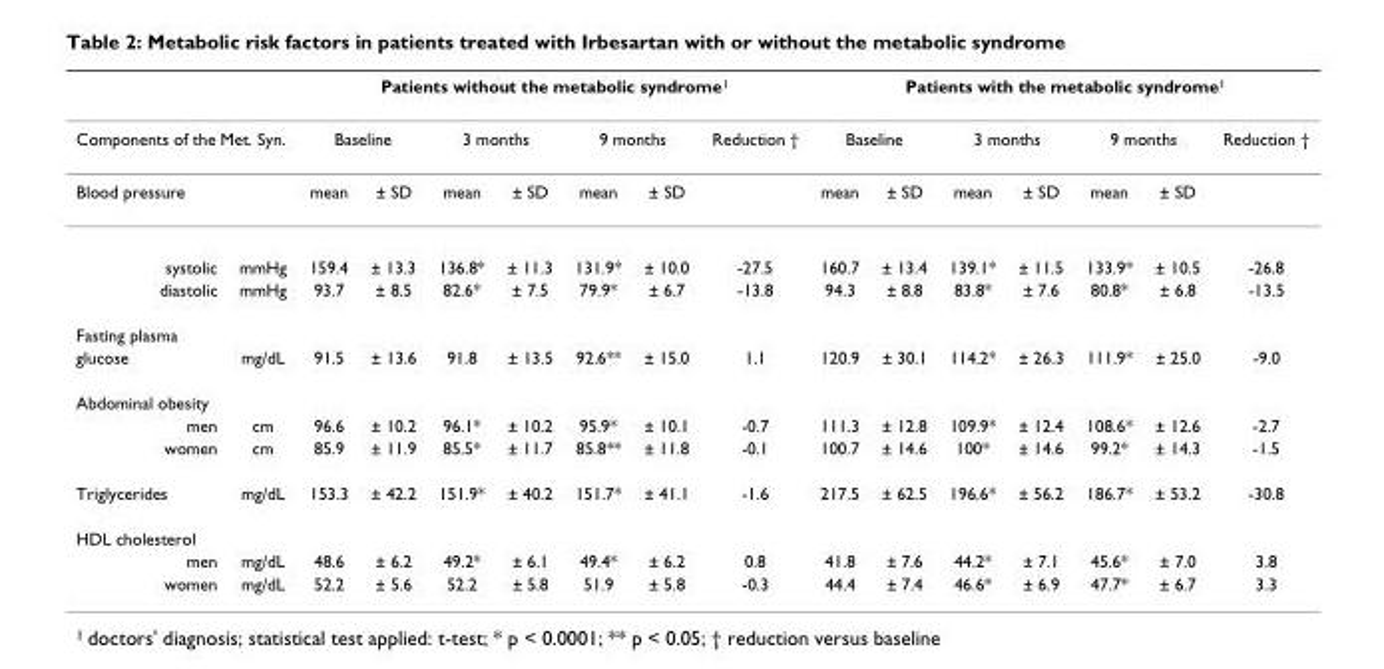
<table><thead><tr><td></td><td></td><td colspan="7">Patients without the metabolic syndrome<sup>1</sup></td><td colspan="7">Patients with the metabolic syndrome<sup>1</sup></td></tr><tr><td rowspan="2" colspan="2">Components of the Met. Syn. Blood pressure</td><td colspan="2">Baseline</td><td colspan="2">3 months</td><td colspan="2">9 months</td><td rowspan="2">Reduction †</td><td colspan="2">Baseline</td><td colspan="2">3 months</td><td colspan="2">9 months</td><td rowspan="2">Reduction †</td></tr><tr><td>mean</td><td>± SD</td><td>mean</td><td>± SD</td><td>mean</td><td>± SD</td><td>mean</td><td>± SD</td><td>mean</td><td>± SD</td><td>mean</td><td>± SD</td></tr></thead><tbody><tr><td>systolic</td><td>mmHg</td><td>159.4</td><td>± 13.3</td><td>136.8*</td><td>± 11.3</td><td>131.9*</td><td>± 10.0</td><td>-27.5</td><td>160.7</td><td>± 13.4</td><td>139.1*</td><td>± 11.5</td><td>133.9*</td><td>± 10.5</td><td>-26.8</td></tr><tr><td>diastolic</td><td>mmHg</td><td>93.7</td><td>± 8.5</td><td>82.6*</td><td>± 7.5</td><td>79.9*</td><td>± 6.7</td><td>-13.8</td><td>94.3</td><td>± 8.8</td><td>83.8*</td><td>± 7.6</td><td>80.8*</td><td>± 6.8</td><td>-13.5</td></tr><tr><td colspan="16">Fasting plasma</td></tr><tr><td>glucose</td><td>mg/dL</td><td>91.5</td><td>± 13.6</td><td>91.8</td><td>± 13.5</td><td>92.6**</td><td>± 15.0</td><td>1.1</td><td>120.9</td><td>± 30.1</td><td>114.2*</td><td>± 26.3</td><td>111.9*</td><td>± 25.0</td><td>-9.0</td></tr><tr><td colspan="16">Abdominal obesity</td></tr><tr><td>men</td><td>cm</td><td>96.6</td><td>± 10.2</td><td>96.1*</td><td>± 10.2</td><td>95.9*</td><td>± 10.1</td><td>-0.7</td><td>111.3</td><td>± 12.8</td><td>109.9*</td><td>± 12.4</td><td>108.6*</td><td>± 12.6</td><td>-2.7</td></tr><tr><td>women</td><td>cm</td><td>85.9</td><td>± 11.9</td><td>85.5*</td><td>± 11.7</td><td>85.8**</td><td>± 11.8</td><td>-0.1</td><td>100.7</td><td>± 14.6</td><td>100*</td><td>± 14.6</td><td>99.2*</td><td>± 14.3</td><td>-1.5</td></tr><tr><td>Triglycerides</td><td>mg/dL</td><td>153.3</td><td>± 42.2</td><td>151.9*</td><td>± 40.2</td><td>151.7*</td><td>± 41.1</td><td>-1.6</td><td>217.5</td><td>± 62.5</td><td>196.6*</td><td>± 56.2</td><td>186.7*</td><td>± 53.2</td><td>-30.8</td></tr><tr><td colspan="16">HDL cholesterol</td></tr><tr><td>men</td><td>mg/dL</td><td>48.6</td><td>± 6.2</td><td>49.2*</td><td>± 6.1</td><td>49.4*</td><td>± 6.2</td><td>0.8</td><td>41.8</td><td>± 7.6</td><td>44.2*</td><td>± 7.1</td><td>45.6*</td><td>± 7.0</td><td>3.8</td></tr><tr><td>women</td><td>mg/dL</td><td>52.2</td><td>± 5.6</td><td>52.2</td><td>± 5.8</td><td>51.9</td><td>± 5.8</td><td>-0.3</td><td>44.4</td><td>± 7.4</td><td>46.6*</td><td>± 6.9</td><td>47.7*</td><td>± 6.7</td><td>3.3</td></tr></tbody></table>